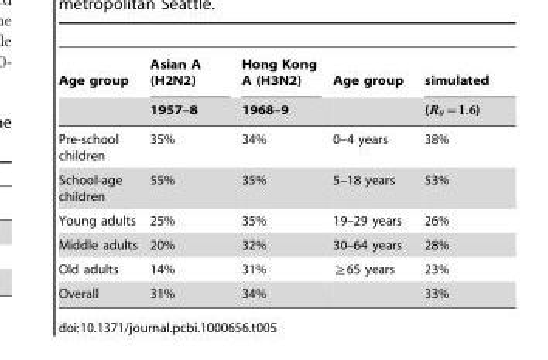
<table><thead><tr><td rowspan="2">Age group</td><td rowspan="2">Asian A (H2N2) 1957–8</td><td rowspan="2">Hong Kong A (H3N2) 1968–9</td><td rowspan="2">Age group</td><td rowspan="2">simulated (R0~1:6)</td></tr><tr></tr></thead><tbody><tr><td>Pre-school children</td><td>35%</td><td>34%</td><td>0–4 years</td><td>38%</td></tr><tr><td>School-age children</td><td>55%</td><td>35%</td><td>5–18 years</td><td>53%</td></tr><tr><td>Young adults</td><td>25%</td><td>35%</td><td>19–29 years</td><td>26%</td></tr><tr><td>Middle adults</td><td>20%</td><td>32%</td><td>30–64 years</td><td>28%</td></tr><tr><td>Old adults</td><td>14%</td><td>31%</td><td>§65 years</td><td>23%</td></tr><tr><td>Overall</td><td>31%</td><td>34%</td><td></td><td>33%</td></tr></tbody></table>